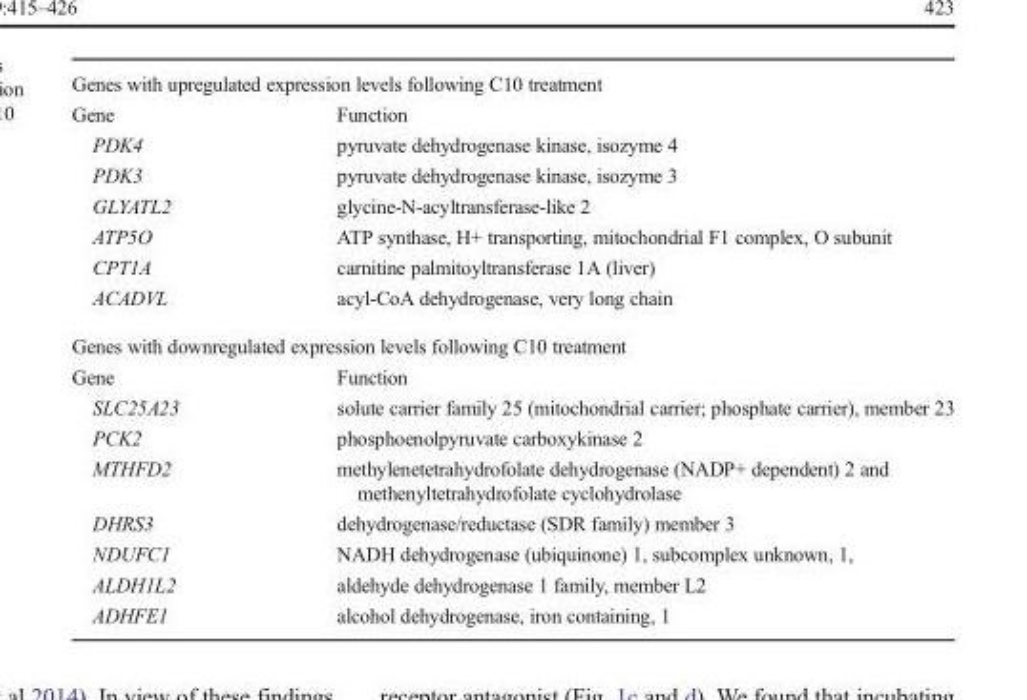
<table><tbody><tr><td colspan="2">Genes with upregulated expression levels following C10 treatment</td></tr><tr><td>Gene</td><td>Function</td></tr><tr><td>PDK4</td><td>pyruvate dehydrogenase kinase, isozyme 4</td></tr><tr><td>PDK3</td><td>pyruvate dehydrogenase kinase, isozyme 3</td></tr><tr><td>GLYATL2</td><td>glycine-N-acyltransferase-like 2</td></tr><tr><td>ATP5O</td><td>ATP synthase, H+ transporting, mitochondrial F1 complex, O subunit</td></tr><tr><td>CPT1A</td><td>carnitine palmitoyltransferase 1A (liver)</td></tr><tr><td>ACADVL</td><td>acyl-CoA dehydrogenase, very long chain</td></tr><tr><td colspan="2">Genes with downregulated expression levels following C10 treatment</td></tr><tr><td>Gene</td><td>Function</td></tr><tr><td>SLC25A23</td><td>solute carrier family 25 (mitochondrial carrier; phosphate carrier), member 23</td></tr><tr><td>PCK2</td><td>phosphoenolpyruvate carboxykinase 2</td></tr><tr><td>MTHFD2</td><td>methylenetetrahydrofolate dehydrogenase (NADP+ dependent) 2 and methenyltetrahydrofolate cyclohydrolase</td></tr><tr><td>DHRS3</td><td>dehydrogenase/reductase (SDR family) member 3</td></tr><tr><td>NDUFC1</td><td>NADH dehydrogenase (ubiquinone) 1, subcomplex unknown, 1,</td></tr><tr><td>ALDH1L2</td><td>aldehyde dehydrogenase 1 family, member L2</td></tr><tr><td>ADHFE1</td><td>alcohol dehydrogenase, iron containing, 1</td></tr></tbody></table>